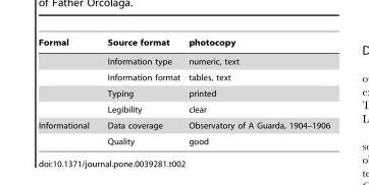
<table><thead><tr><td>Formal</td><td>Source format</td><td>photocopy</td></tr></thead><tbody><tr><td></td><td>Information type</td><td>numeric, text</td></tr><tr><td></td><td>Information format</td><td>tables, text</td></tr><tr><td></td><td>Typing</td><td>printed</td></tr><tr><td></td><td>Legibility</td><td>clear</td></tr><tr><td rowspan="2">Informational</td><td>Data coverage</td><td>Observatory of A Guarda, 1904–1906</td></tr><tr><td>Quality</td><td>good</td></tr></tbody></table>